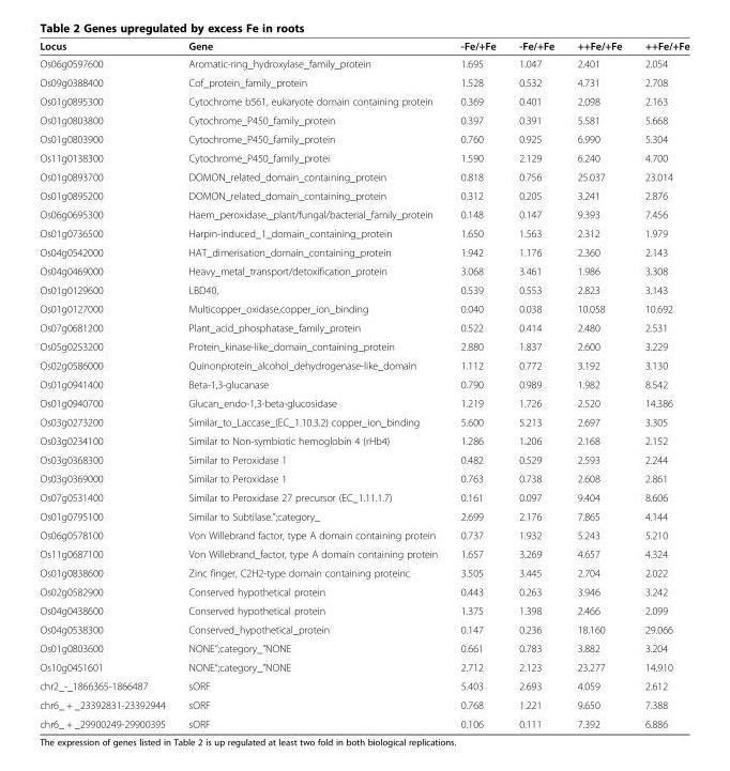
<table><thead><tr><td>Locus</td><td>Gene</td><td>-Fe/+Fe</td><td>-Fe/+Fe</td><td>++Fe/+Fe</td><td>++Fe/+Fe</td></tr></thead><tbody><tr><td>Os06g0597600</td><td>Aromatic-ring_hydroxylase_family_protein</td><td>1.695</td><td>1.047</td><td>2.401</td><td>2.054</td></tr><tr><td>Os09g0388400</td><td>Cof_protein_family_protein</td><td>1.528</td><td>0.532</td><td>4.731</td><td>2.708</td></tr><tr><td>Os01g0895300</td><td>Cytochrome b561, eukaryote domain containing protein</td><td>0.369</td><td>0.401</td><td>2.098</td><td>2.163</td></tr><tr><td>Os01g0803800</td><td>Cytochrome_P450_family_protein</td><td>0.397</td><td>0.391</td><td>5.581</td><td>5.668</td></tr><tr><td>Os01g0803900</td><td>Cytochrome_P450_family_protein</td><td>0.760</td><td>0.925</td><td>6.990</td><td>5.304</td></tr><tr><td>Os11g0138300</td><td>Cytochrome_P450_family_protei</td><td>1.590</td><td>2.129</td><td>6.240</td><td>4.700</td></tr><tr><td>Os01g0893700</td><td>DOMON_related_domain_containing_protein</td><td>0.818</td><td>0.756</td><td>25.037</td><td>23.014</td></tr><tr><td>Os01g0895200</td><td>DOMON_related_domain_containing_protein</td><td>0.312</td><td>0.205</td><td>3.241</td><td>2.876</td></tr><tr><td>Os06g0695300</td><td>Haem_peroxidase,_plant/fungal/bacterial_family_protein</td><td>0.148</td><td>0.147</td><td>9.393</td><td>7.456</td></tr><tr><td>Os01g0736500</td><td>Harpin-induced_1_domain_containing_protein</td><td>1.650</td><td>1.563</td><td>2.312</td><td>1.979</td></tr><tr><td>Os04g0542000</td><td>HAT_dimerisation_domain_containing_protein</td><td>1.942</td><td>1.176</td><td>2.360</td><td>2.143</td></tr><tr><td>Os04g0469000</td><td>Heavy_metal_transport/detoxification_protein</td><td>3.068</td><td>3.461</td><td>1.986</td><td>3.308</td></tr><tr><td>Os01g0129600</td><td>LBD40,</td><td>0.539</td><td>0.553</td><td>2.823</td><td>3.143</td></tr><tr><td>Os01g0127000</td><td>Multicopper_oxidase,copper_ion_binding</td><td>0.040</td><td>0.038</td><td>10.058</td><td>10.692</td></tr><tr><td>Os07g0681200</td><td>Plant_acid_phosphatase_family_protein</td><td>0.522</td><td>0.414</td><td>2.480</td><td>2.531</td></tr><tr><td>Os05g0253200</td><td>Protein_kinase-like_domain_containing_protein</td><td>2.880</td><td>1.837</td><td>2.600</td><td>3.229</td></tr><tr><td>Os02g0586000</td><td>Quinonprotein_alcohol_dehydrogenase-like_domain</td><td>1.112</td><td>0.772</td><td>3.192</td><td>3.130</td></tr><tr><td>Os01g0941400</td><td>Beta-1,3-glucanase</td><td>0.790</td><td>0.989</td><td>1.982</td><td>8.542</td></tr><tr><td>Os01g0940700</td><td>Glucan_endo-1,3-beta-glucosidase</td><td>1.219</td><td>1.726</td><td>2.520</td><td>14.386</td></tr><tr><td>Os03g0273200</td><td>Similar_to_Laccase_(EC_1.10.3.2) copper_ion_binding</td><td>5.600</td><td>5.213</td><td>2.697</td><td>3.305</td></tr><tr><td>Os03g0234100</td><td>Similar to Non-symbiotic hemoglobin 4 (rHb4)</td><td>1.286</td><td>1.206</td><td>2.168</td><td>2.152</td></tr><tr><td>Os03g0368300</td><td>Similar to Peroxidase 1</td><td>0.482</td><td>0.529</td><td>2.593</td><td>2.244</td></tr><tr><td>Os03g0369000</td><td>Similar to Peroxidase 1</td><td>0.763</td><td>0.738</td><td>2.608</td><td>2.861</td></tr><tr><td>Os07g0531400</td><td>Similar to Peroxidase 27 precursor (EC_1.11.1.7)</td><td>0.161</td><td>0.097</td><td>9.404</td><td>8.606</td></tr><tr><td>Os01g0795100</td><td>Similar to Subtilase.”;category_</td><td>2.699</td><td>2.176</td><td>7.865</td><td>4.144</td></tr><tr><td>Os06g0578100</td><td>Von Willebrand factor, type A domain containing protein</td><td>0.737</td><td>1.932</td><td>5.243</td><td>5.210</td></tr><tr><td>Os11g0687100</td><td>Von Willebrand_factor, type A domain containing protein</td><td>1.657</td><td>3.269</td><td>4.657</td><td>4.324</td></tr><tr><td>Os01g0838600</td><td>Zinc finger, C2H2-type domain containing proteinc</td><td>3.505</td><td>3.445</td><td>2.704</td><td>2.022</td></tr><tr><td>Os02g0582900</td><td>Conserved hypothetical protein</td><td>0.443</td><td>0.263</td><td>3.946</td><td>3.242</td></tr><tr><td>Os04g0438600</td><td>Conserved hypothetical protein</td><td>1.375</td><td>1.398</td><td>2.466</td><td>2.099</td></tr><tr><td>Os04g0538300</td><td>Conserved_hypothetical_protein</td><td>0.147</td><td>0.236</td><td>18.160</td><td>29.066</td></tr><tr><td>Os01g0803600</td><td>NONE“;category_”NONE</td><td>0.661</td><td>0.783</td><td>3.882</td><td>3.204</td></tr><tr><td>Os10g0451601</td><td>NONE“;category_”NONE</td><td>2.712</td><td>2.123</td><td>23.277</td><td>14.910</td></tr><tr><td>chr2_-_1866365-1866487</td><td>sORF</td><td>5.403</td><td>2.693</td><td>4.059</td><td>2.612</td></tr><tr><td>chr6_ + _23392831-23392944</td><td>sORF</td><td>0.768</td><td>1.221</td><td>9.650</td><td>7.388</td></tr><tr><td>chr6_ + _29900249-29900395</td><td>sORF</td><td>0.106</td><td>0.111</td><td>7.392</td><td>6.886</td></tr></tbody></table>